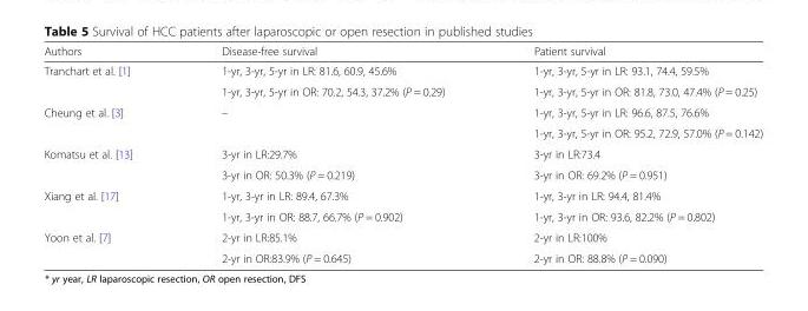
<table><thead><tr><td>Authors</td><td>Disease-free survival</td><td>Patient survival</td></tr></thead><tbody><tr><td rowspan="2">Tranchart et al. [1]</td><td>1-yr, 3-yr, 5-yr in LR: 81.6, 60.9, 45.6%</td><td>1-yr, 3-yr, 5-yr in LR: 93.1, 74.4, 59.5%</td></tr><tr><td>1-yr, 3-yr, 5-yr in OR: 70.2, 54.3, 37.2% (P = 0.29)</td><td>1-yr, 3-yr, 5-yr in OR: 81.8, 73.0, 47.4% (P = 0.25)</td></tr><tr><td rowspan="2">Cheung et al. [3]</td><td>–</td><td>1-yr, 3-yr, 5-yr in LR: 96.6, 87.5, 76.6%</td></tr><tr><td></td><td>1-yr, 3-yr, 5-yr in OR: 95.2, 72.9, 57.0% (P = 0.142)</td></tr><tr><td rowspan="2">Komatsu et al. [13]</td><td>3-yr in LR:29.7%</td><td>3-yr in LR:73.4</td></tr><tr><td>3-yr in OR: 50.3% (P = 0.219)</td><td>3-yr in OR: 69.2% (P = 0.951)</td></tr><tr><td rowspan="2">Xiang et al. [17]</td><td>1-yr, 3-yr in LR: 89.4, 67.3%</td><td>1-yr, 3-yr in LR: 94.4, 81.4%</td></tr><tr><td>1-yr, 3-yr in OR: 88.7, 66.7% (P = 0.902)</td><td>1-yr, 3-yr in OR: 93.6, 82.2% (P = 0.802)</td></tr><tr><td rowspan="2">Yoon et al. [7]</td><td>2-yr in LR:85.1%</td><td>2-yr in LR:100%</td></tr><tr><td>2-yr in OR:83.9% (P = 0.645)</td><td>2-yr in OR: 88.8% (P = 0.090)</td></tr></tbody></table>